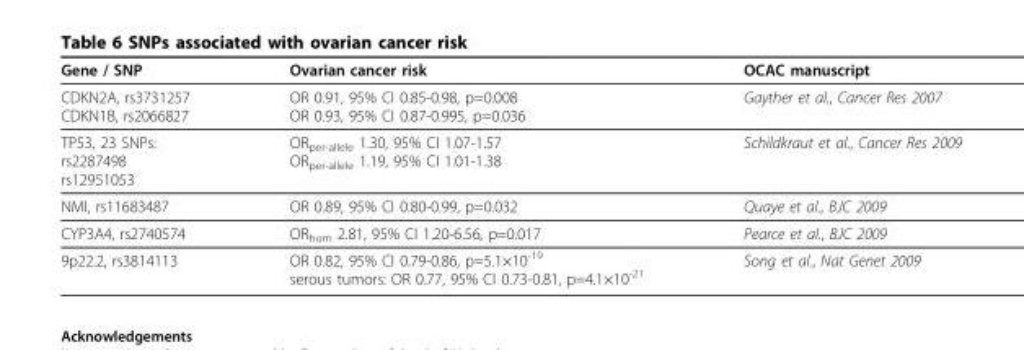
<table><thead><tr><td>Gene / SNP</td><td>Ovarian cancer risk</td><td>OCAC manuscript</td></tr></thead><tbody><tr><td>CDKN2A, rs3731257 CDKN1B, rs2066827</td><td>OR 0.91, 95% CI 0.85-0.98, p=0.008 OR 0.93, 95% CI 0.87-0.995, p=0.036</td><td>Gayther et al., Cancer Res 2007</td></tr><tr><td>TP53, 23 SNPs: rs2287498 rs12951053</td><td>OR<sub>per-allele</sub> 1.30, 95% CI 1.07-1.57 OR<sub>per-allele</sub> 1.19, 95% CI 1.01-1.38</td><td>Schildkraut et al., Cancer Res 2009</td></tr><tr><td>NMI, rs11683487</td><td>OR 0.89, 95% CI 0.80-0.99, p=0.032</td><td>Quaye et al., BJC 2009</td></tr><tr><td>CYP3A4, rs2740574</td><td>OR<sub>hom</sub> 2.81, 95% CI 1.20-6.56, p=0.017</td><td>Pearce et al., BJC 2009</td></tr><tr><td>9p22.2, rs3814113</td><td>OR 0.82, 95% CI 0.79-0.86, p=5.1×10<sup>-19</sup> serous tumors: OR 0.77, 95% CI 0.73-0.81, p=4.1×10<sup>-21</sup></td><td>Song et al., Nat Genet 2009</td></tr></tbody></table>